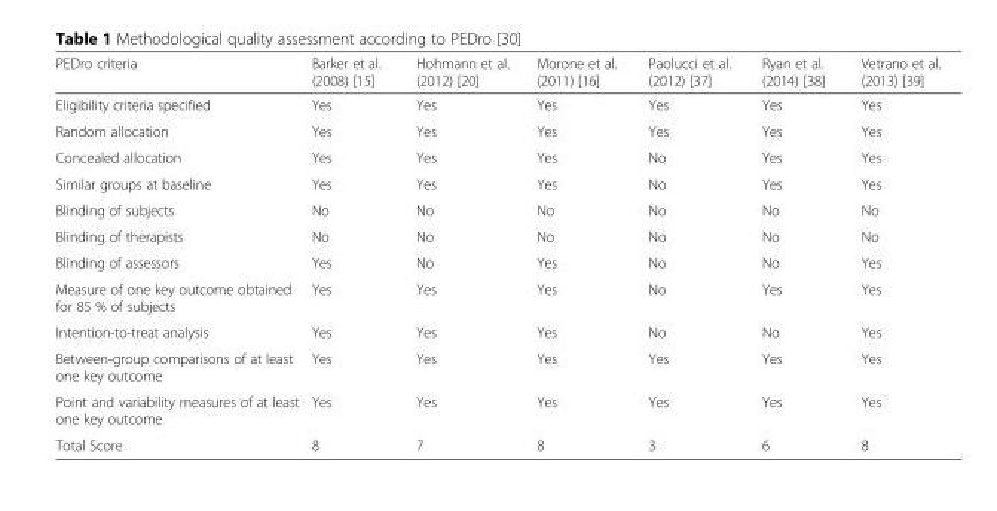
<table><thead><tr><td>PEDro criteria</td><td>Barker et al. (2008) [15]</td><td>Hohmann et al. (2012) [20]</td><td>Morone et al. (2011) [16]</td><td>Paolucci et al. (2012) [37]</td><td>Ryan et al. (2014) [38]</td><td>Vetrano et al. (2013) [39]</td></tr></thead><tbody><tr><td>Eligibility criteria specified</td><td>Yes</td><td>Yes</td><td>Yes</td><td>Yes</td><td>Yes</td><td>Yes</td></tr><tr><td>Random allocation</td><td>Yes</td><td>Yes</td><td>Yes</td><td>Yes</td><td>Yes</td><td>Yes</td></tr><tr><td>Concealed allocation</td><td>Yes</td><td>Yes</td><td>Yes</td><td>No</td><td>Yes</td><td>Yes</td></tr><tr><td>Similar groups at baseline</td><td>Yes</td><td>Yes</td><td>Yes</td><td>No</td><td>Yes</td><td>Yes</td></tr><tr><td>Blinding of subjects</td><td>No</td><td>No</td><td>No</td><td>No</td><td>No</td><td>No</td></tr><tr><td>Blinding of therapists</td><td>No</td><td>No</td><td>No</td><td>No</td><td>No</td><td>No</td></tr><tr><td>Blinding of assessors</td><td>Yes</td><td>No</td><td>Yes</td><td>No</td><td>No</td><td>Yes</td></tr><tr><td>Measure of one key outcome obtained for 85 % of subjects</td><td>Yes</td><td>Yes</td><td>Yes</td><td>No</td><td>Yes</td><td>Yes</td></tr><tr><td>Intention-to-treat analysis</td><td>Yes</td><td>Yes</td><td>Yes</td><td>No</td><td>No</td><td>Yes</td></tr><tr><td>Between-group comparisons of at least one key outcome</td><td>Yes</td><td>Yes</td><td>Yes</td><td>Yes</td><td>Yes</td><td>Yes</td></tr><tr><td>Point and variability measures of at least one key outcome</td><td>Yes</td><td>Yes</td><td>Yes</td><td>Yes</td><td>Yes</td><td>Yes</td></tr><tr><td>Total Score</td><td>8</td><td>7</td><td>8</td><td>3</td><td>6</td><td>8</td></tr></tbody></table>